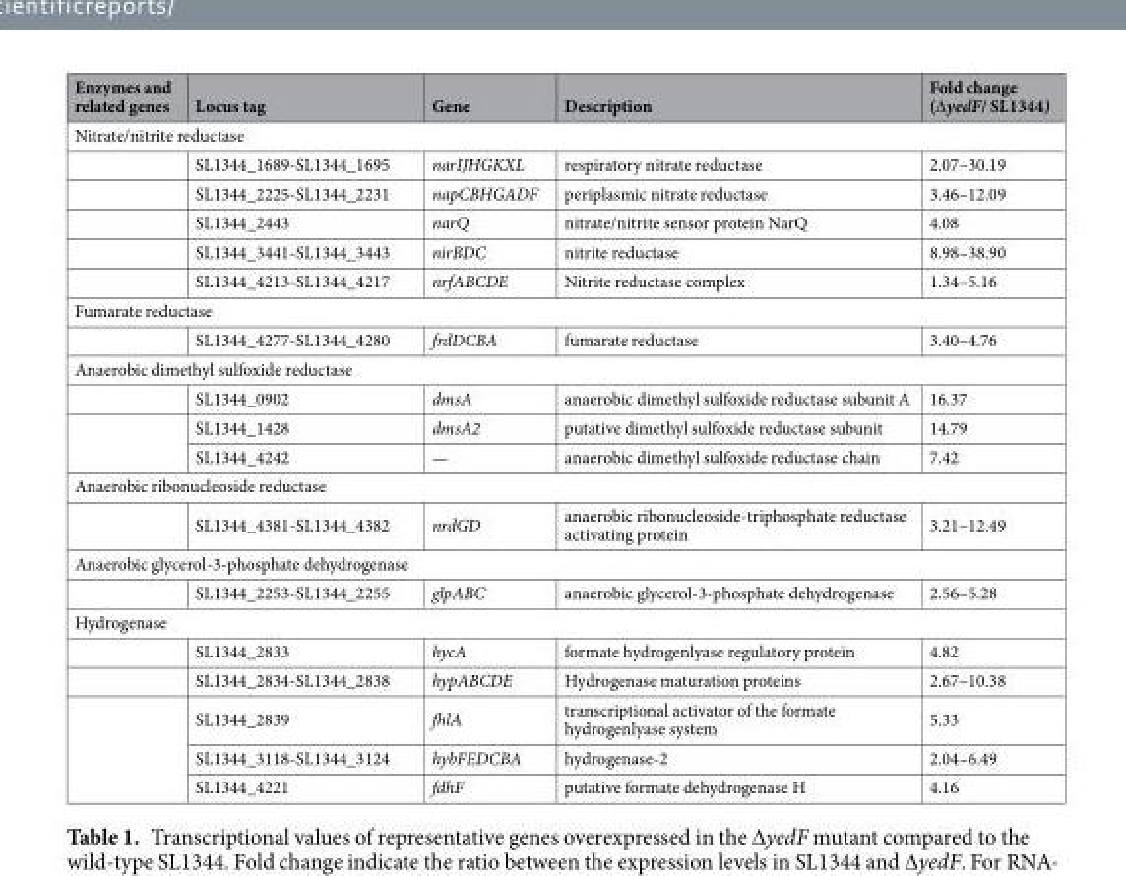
<table><thead><tr><td>Enzymes and related genes</td><td>Locus tag</td><td>Gene</td><td>Description</td><td>Fold change (∆yedF/ SL1344)</td></tr></thead><tbody><tr><td colspan="5">Nitrate/nitrite reductase</td></tr><tr><td></td><td>SL1344_1689-SL1344_1695</td><td>narIJHGKXL</td><td>respiratory nitrate reductase</td><td>2.07–30.19</td></tr><tr><td></td><td>SL1344_2225-SL1344_2231</td><td>napCBHGADF</td><td>periplasmic nitrate reductase</td><td>3.46–12.09</td></tr><tr><td></td><td>SL1344_2443</td><td>narQ</td><td>nitrate/nitrite sensor protein NarQ</td><td>4.08</td></tr><tr><td></td><td>SL1344_3441-SL1344_3443</td><td>nirBDC</td><td>nitrite reductase</td><td>8.98–38.90</td></tr><tr><td></td><td>SL1344_4213-SL1344_4217</td><td>nrfABCDE</td><td>Nitrite reductase complex</td><td>1.34–5.16</td></tr><tr><td colspan="5">Fumarate reductase</td></tr><tr><td></td><td>SL1344_4277-SL1344_4280</td><td>frdDCBA</td><td>fumarate reductase</td><td>3.40–4.76</td></tr><tr><td colspan="5">Anaerobic dimethyl sulfoxide reductase</td></tr><tr><td></td><td>SL1344_0902</td><td>dmsA</td><td>anaerobic dimethyl sulfoxide reductase subunit A</td><td>16.37</td></tr><tr><td rowspan="2"></td><td>SL1344_1428</td><td>dmsA2</td><td>putative dimethyl sulfoxide reductase subunit</td><td>14.79</td></tr><tr><td>SL1344_4242</td><td>—</td><td>anaerobic dimethyl sulfoxide reductase chain</td><td>7.42</td></tr><tr><td colspan="5">Anaerobic ribonucleoside reductase</td></tr><tr><td></td><td>SL1344_4381-SL1344_4382</td><td>nrdGD</td><td>anaerobic ribonucleoside-triphosphate reductase activating protein</td><td>3.21–12.49</td></tr><tr><td colspan="5">Anaerobic glycerol-3-phosphate dehydrogenase</td></tr><tr><td></td><td>SL1344_2253-SL1344_2255</td><td>glpABC</td><td>anaerobic glycerol-3-phosphate dehydrogenase</td><td>2.56–5.28</td></tr><tr><td colspan="5">Hydrogenase</td></tr><tr><td></td><td>SL1344_2833</td><td>hycA</td><td>formate hydrogenlyase regulatory protein</td><td>4.82</td></tr><tr><td></td><td>SL1344_2834-SL1344_2838</td><td>hypABCDE</td><td>Hydrogenase maturation proteins</td><td>2.67–10.38</td></tr><tr><td rowspan="3"></td><td>SL1344_2839</td><td>fhlA</td><td>transcriptional activator of the formate hydrogenlyase system</td><td>5.33</td></tr><tr><td>SL1344_3118-SL1344_3124</td><td>hybFEDCBA</td><td>hydrogenase-2</td><td>2.04–6.49</td></tr><tr><td>SL1344_4221</td><td>fdhF</td><td>putative formate dehydrogenase H</td><td>4.16</td></tr></tbody></table>